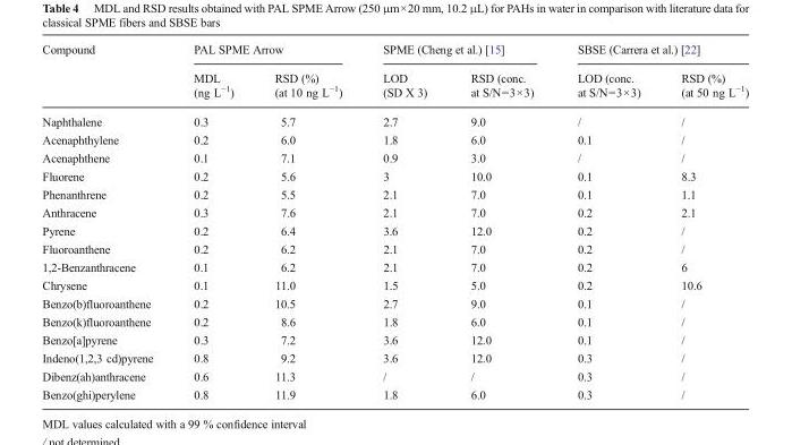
<table><thead><tr><td rowspan="2">Compound</td><td colspan="2">PAL SPME Arrow</td><td colspan="2">SPME (Cheng et al.) [15]</td><td colspan="2">SBSE (Carrera et al.) [22]</td></tr><tr><td>MDL (ng L<sup>−1</sup>)</td><td>RSD (%) (at 10 ng L<sup>−1</sup>)</td><td>LOD (SD X 3)</td><td>RSD (conc. at S/N=3×3)</td><td>LOD (conc. at S/N=3×3)</td><td>RSD (%) (at 50 ng L<sup>−1</sup>)</td></tr></thead><tbody><tr><td>Naphthalene</td><td>0.3</td><td>5.7</td><td>2.7</td><td>9.0</td><td>/</td><td>/</td></tr><tr><td>Acenaphthylene</td><td>0.2</td><td>6.0</td><td>1.8</td><td>6.0</td><td>0.1</td><td>/</td></tr><tr><td>Acenaphthene</td><td>0.1</td><td>7.1</td><td>0.9</td><td>3.0</td><td>/</td><td>/</td></tr><tr><td>Fluorene</td><td>0.2</td><td>5.6</td><td>3</td><td>10.0</td><td>0.1</td><td>8.3</td></tr><tr><td>Phenanthrene</td><td>0.2</td><td>5.5</td><td>2.1</td><td>7.0</td><td>0.1</td><td>1.1</td></tr><tr><td>Anthracene</td><td>0.3</td><td>7.6</td><td>2.1</td><td>7.0</td><td>0.2</td><td>2.1</td></tr><tr><td>Pyrene</td><td>0.2</td><td>6.4</td><td>3.6</td><td>12.0</td><td>0.2</td><td>/</td></tr><tr><td>Fluoroanthene</td><td>0.2</td><td>6.2</td><td>2.1</td><td>7.0</td><td>0.2</td><td>/</td></tr><tr><td>1,2-Benzanthracene</td><td>0.1</td><td>6.2</td><td>2.1</td><td>7.0</td><td>0.2</td><td>6</td></tr><tr><td>Chrysene</td><td>0.1</td><td>11.0</td><td>1.5</td><td>5.0</td><td>0.2</td><td>10.6</td></tr><tr><td>Benzo(b)fluoroanthene</td><td>0.2</td><td>10.5</td><td>2.7</td><td>9.0</td><td>0.1</td><td>/</td></tr><tr><td>Benzo(k)fluoroanthene</td><td>0.2</td><td>8.6</td><td>1.8</td><td>6.0</td><td>0.1</td><td>/</td></tr><tr><td>Benzo[a]pyrene</td><td>0.3</td><td>7.2</td><td>3.6</td><td>12.0</td><td>0.1</td><td>/</td></tr><tr><td>Indeno(1,2,3 cd)pyrene</td><td>0.8</td><td>9.2</td><td>3.6</td><td>12.0</td><td>0.3</td><td>/</td></tr><tr><td>Dibenz(ah)anthracene</td><td>0.6</td><td>11.3</td><td>/</td><td>/</td><td>0.3</td><td>/</td></tr><tr><td>Benzo(ghi)perylene</td><td>0.8</td><td>11.9</td><td>1.8</td><td>6.0</td><td>0.3</td><td>/</td></tr></tbody></table>